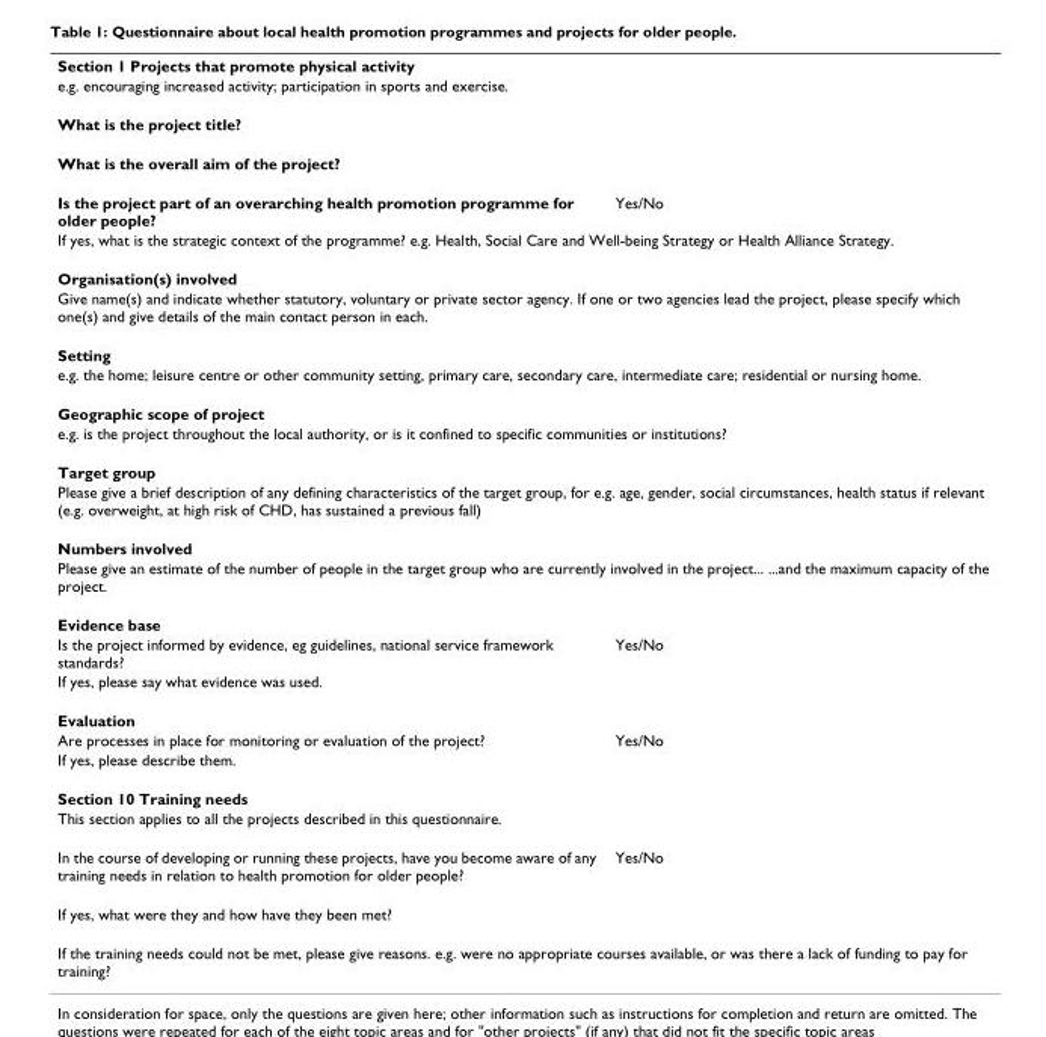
<table><tbody><tr><td colspan="2">Section 1 Projects that promote physical activity</td></tr><tr><td colspan="2">e.g. encouraging increased activity; participation in sports and exercise.</td></tr><tr><td colspan="2">What is the project title?</td></tr><tr><td colspan="2">What is the overall aim of the project?</td></tr><tr><td>Is the project part of an overarching health promotion programme for older people?</td><td>Yes/No</td></tr><tr><td colspan="2">If yes, what is the strategic context of the programme? e.g. Health, Social Care and Well-being Strategy or Health Alliance Strategy.</td></tr><tr><td colspan="2">Organisation(s) involved</td></tr><tr><td colspan="2">Give name(s) and indicate whether statutory, voluntary or private sector agency. If one or two agencies lead the project, please specify which one(s) and give details of the main contact person in each.</td></tr><tr><td colspan="2">Setting</td></tr><tr><td colspan="2">e.g. the home; leisure centre or other community setting, primary care, secondary care, intermediate care; residential or nursing home.</td></tr><tr><td colspan="2">Geographic scope of project</td></tr><tr><td colspan="2">e.g. is the project throughout the local authority, or is it confined to specific communities or institutions?</td></tr><tr><td colspan="2">Target group</td></tr><tr><td colspan="2">Please give a brief description of any defining characteristics of the target group, for e.g. age, gender, social circumstances, health status if relevant (e.g. overweight, at high risk of CHD, has sustained a previous fall)</td></tr><tr><td colspan="2">Numbers involved</td></tr><tr><td colspan="2">Please give an estimate of the number of people in the target group who are currently involved in the project... ...and the maximum capacity of the project.</td></tr><tr><td colspan="2">Evidence base</td></tr><tr><td>Is the project informed by evidence, eg guidelines, national service framework standards?</td><td>Yes/No</td></tr><tr><td colspan="2">If yes, please say what evidence was used.</td></tr><tr><td colspan="2">Evaluation</td></tr><tr><td>Are processes in place for monitoring or evaluation of the project?</td><td>Yes/No</td></tr><tr><td colspan="2">If yes, please describe them.</td></tr><tr><td colspan="2">Section 10 Training needs</td></tr><tr><td colspan="2">This section applies to all the projects described in this questionnaire.</td></tr><tr><td>In the course of developing or running these projects, have you become aware of any training needs in relation to health promotion for older people?</td><td>Yes/No</td></tr><tr><td colspan="2">If yes, what were they and how have they been met?</td></tr><tr><td colspan="2">If the training needs could not be met, please give reasons. e.g. were no appropriate courses available, or was there a lack of funding to pay for training?</td></tr></tbody></table>